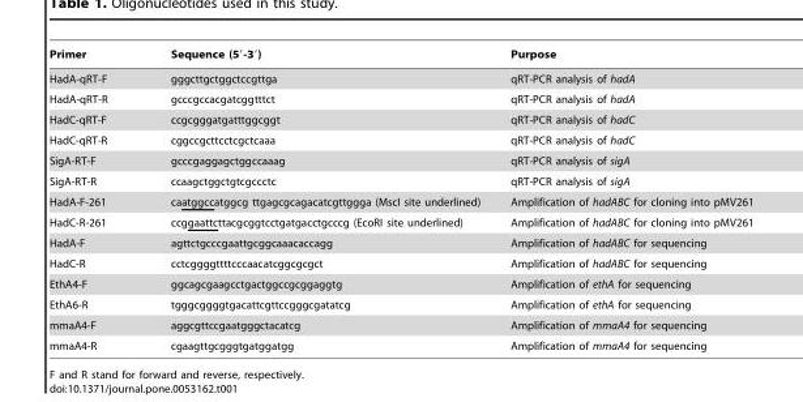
<table><thead><tr><td>Primer</td><td>Sequence (5′-3′)</td><td>Purpose</td></tr></thead><tbody><tr><td>HadA-qRT-F</td><td>gggcttgctggctccgttga</td><td>qRT-PCR analysis of hadA</td></tr><tr><td>HadA-qRT-R</td><td>gcccgccacgatcggtttct</td><td>qRT-PCR analysis of hadA</td></tr><tr><td>HadC-qRT-F</td><td>ccgcgggatgatttggcggt</td><td>qRT-PCR analysis of hadC</td></tr><tr><td>HadC-qRT-R</td><td>cggccgcttcctcgctcaaa</td><td>qRT-PCR analysis of hadC</td></tr><tr><td>SigA-RT-F</td><td>gcccgaggagctggccaaag</td><td>qRT-PCR analysis of sigA</td></tr><tr><td>SigA-RT-R</td><td>ccaagctggctgtcgccctc</td><td>qRT-PCR analysis of sigA</td></tr><tr><td>HadA-F-261</td><td>caatggccatggcg ttgagcgcagacatcgttggga (MscI site underlined)</td><td>Amplification of hadABC for cloning into pMV261</td></tr><tr><td>HadC-R-261</td><td>ccggaattcttacgcggtcctgatgacctgcccg (EcoRI site underlined)</td><td>Amplification of hadABC for cloning into pMV261</td></tr><tr><td>HadA-F</td><td>agttctgcccgaattgcggcaaacaccagg</td><td>Amplification of hadABC for sequencing</td></tr><tr><td>HadC-R</td><td>cctcggggttttcccaacatcggcgcgct</td><td>Amplification of hadABC for sequencing</td></tr><tr><td>EthA4-F</td><td>ggcagcgaagcctgactggccgcggaggtg</td><td>Amplification of ethA for sequencing</td></tr><tr><td>EthA6-R</td><td>tgggcggggtgacattcgttccgggcgatatcg</td><td>Amplification of ethA for sequencing</td></tr><tr><td>mmaA4-F</td><td>aggcgttccgaatgggctacatcg</td><td>Amplification of mmaA4 for sequencing</td></tr><tr><td>mmaA4-R</td><td>cgaagttgcgggtgatggatgg</td><td>Amplification of mmaA4 for sequencing</td></tr></tbody></table>